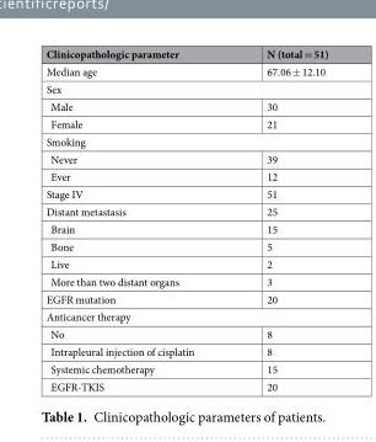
<table><thead><tr><td>Clinicopathologic parameter</td><td>N (total = 51)</td></tr></thead><tbody><tr><td>Median age</td><td>67.06 ± 12.10</td></tr><tr><td colspan="2">Sex</td></tr><tr><td>Male</td><td>30</td></tr><tr><td>Female</td><td>21</td></tr><tr><td colspan="2">Smoking</td></tr><tr><td>Never</td><td>39</td></tr><tr><td>Ever</td><td>12</td></tr><tr><td>Stage IV</td><td>51</td></tr><tr><td>Distant metastasis</td><td>25</td></tr><tr><td>Brain</td><td>15</td></tr><tr><td>Bone</td><td>5</td></tr><tr><td>Live</td><td>2</td></tr><tr><td>More than two distant organs</td><td>3</td></tr><tr><td>EGFR mutation</td><td>20</td></tr><tr><td colspan="2">Anticancer therapy</td></tr><tr><td>No</td><td>8</td></tr><tr><td>Intrapleural injection of cisplatin</td><td>8</td></tr><tr><td>Systemic chemotherapy</td><td>15</td></tr><tr><td>EGFR-TKIS</td><td>20</td></tr></tbody></table>